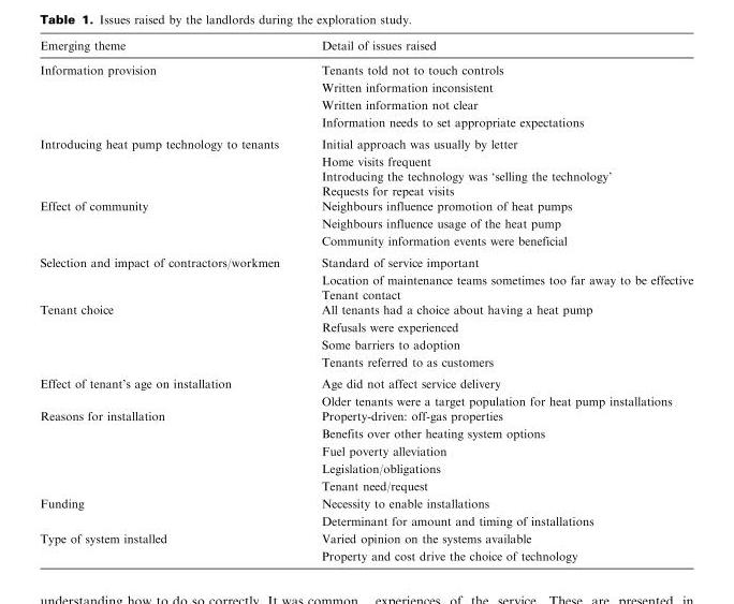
<table><thead><tr><td>Emerging theme</td><td>Detail of issues raised</td></tr></thead><tbody><tr><td rowspan="4">Information provision</td><td>Tenants told not to touch controls</td></tr><tr><td>Written information inconsistent</td></tr><tr><td>Written information not clear</td></tr><tr><td>Information needs to set appropriate expectations</td></tr><tr><td rowspan="4">Introducing heat pump technology to tenants</td><td>Initial approach was usually by letter</td></tr><tr><td>Home visits frequent</td></tr><tr><td>Introducing the technology was ‘selling the technology’</td></tr><tr><td>Requests for repeat visits</td></tr><tr><td rowspan="3">Effect of community</td><td>Neighbours influence promotion of heat pumps</td></tr><tr><td>Neighbours influence usage of the heat pump</td></tr><tr><td>Community information events were beneficial</td></tr><tr><td rowspan="3">Selection and impact of contractors/workmen</td><td>Standard of service important</td></tr><tr><td>Location of maintenance teams sometimes too far away to be effective</td></tr><tr><td>Tenant contact</td></tr><tr><td rowspan="4">Tenant choice</td><td>All tenants had a choice about having a heat pump</td></tr><tr><td>Refusals were experienced</td></tr><tr><td>Some barriers to adoption</td></tr><tr><td>Tenants referred to as customers</td></tr><tr><td rowspan="2">Effect of tenant’s age on installation</td><td>Age did not affect service delivery</td></tr><tr><td>Older tenants were a target population for heat pump installations</td></tr><tr><td rowspan="5">Reasons for installation</td><td>Property-driven: off-gas properties</td></tr><tr><td>Benefits over other heating system options</td></tr><tr><td>Fuel poverty alleviation</td></tr><tr><td>Legislation/obligations</td></tr><tr><td>Tenant need/request</td></tr><tr><td rowspan="2">Funding</td><td>Necessity to enable installations</td></tr><tr><td>Determinant for amount and timing of installations</td></tr><tr><td rowspan="2">Type of system installed</td><td>Varied opinion on the systems available</td></tr><tr><td>Property and cost drive the choice of technology</td></tr></tbody></table>